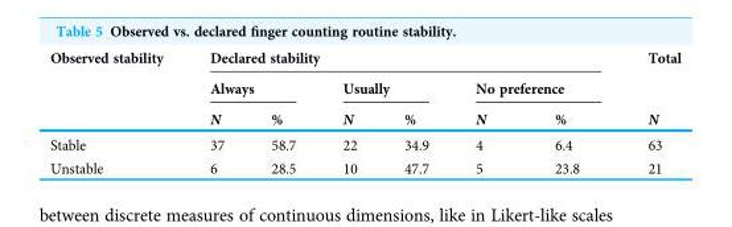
<table><thead><tr><td rowspan="3">Observed stability</td><td colspan="6">Declared stability</td><td rowspan="3">Total N</td></tr><tr><td colspan="2">Always</td><td colspan="2">Usually</td><td colspan="2">No preference</td></tr><tr><td>N</td><td>%</td><td>N</td><td>%</td><td>N</td><td>%</td></tr></thead><tbody><tr><td>Stable</td><td>37</td><td>58.7</td><td>22</td><td>34.9</td><td>4</td><td>6.4</td><td>63</td></tr><tr><td>Unstable</td><td>6</td><td>28.5</td><td>10</td><td>47.7</td><td>5</td><td>23.8</td><td>21</td></tr></tbody></table>